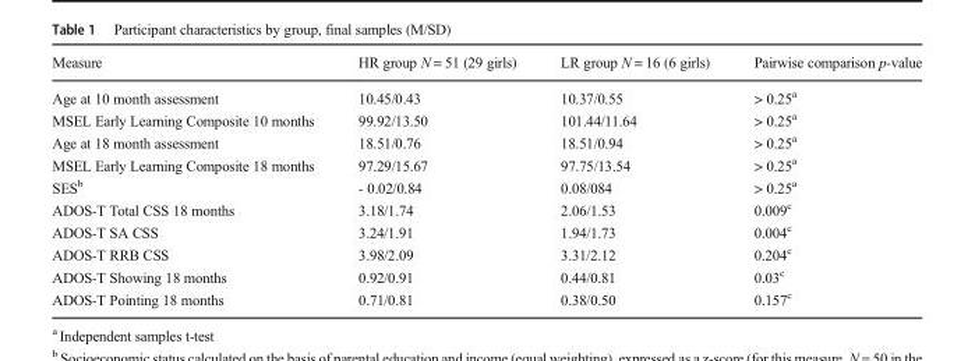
<table><thead><tr><td>Measure</td><td>HR group N = 51 (29 girls)</td><td>LR group N = 16 (6 girls)</td><td>Pairwise comparison p-value</td></tr></thead><tbody><tr><td>Age at 10 month assessment</td><td>10.45/0.43</td><td>10.37/0.55</td><td>&gt; 0.25<sup>a</sup></td></tr><tr><td>MSEL Early Learning Composite 10 months</td><td>99.92/13.50</td><td>101.44/11.64</td><td>&gt; 0.25<sup>a</sup></td></tr><tr><td>Age at 18 month assessment</td><td>18.51/0.76</td><td>18.51/0.94</td><td>&gt; 0.25<sup>a</sup></td></tr><tr><td>MSEL Early Learning Composite 18 months</td><td>97.29/15.67</td><td>97.75/13.54</td><td>&gt; 0.25<sup>a</sup></td></tr><tr><td>SES<sup>b</sup></td><td>- 0.02/0.84</td><td>0.08/084</td><td>&gt; 0.25<sup>a</sup></td></tr><tr><td>ADOS-T Total CSS 18 months</td><td>3.18/1.74</td><td>2.06/1.53</td><td>0.009<sup>c</sup></td></tr><tr><td>ADOS-T SA CSS</td><td>3.24/1.91</td><td>1.94/1.73</td><td>0.004<sup>c</sup></td></tr><tr><td>ADOS-T RRB CSS</td><td>3.98/2.09</td><td>3.31/2.12</td><td>0.204<sup>c</sup></td></tr><tr><td>ADOS-T Showing 18 months</td><td>0.92/0.91</td><td>0.44/0.81</td><td>0.03<sup>c</sup></td></tr><tr><td>ADOS-T Pointing 18 months</td><td>0.71/0.81</td><td>0.38/0.50</td><td>0.157<sup>c</sup></td></tr></tbody></table>